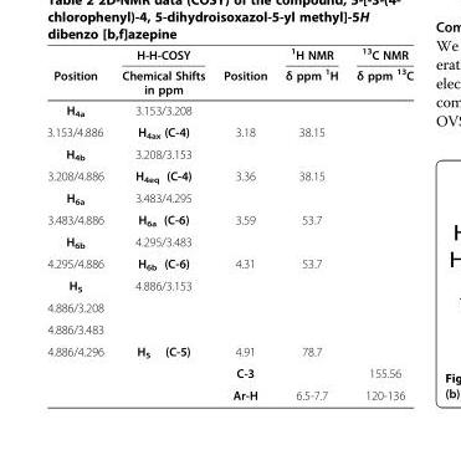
<table><thead><tr><td rowspan="2">Position</td><td rowspan="2">H-H-COSY Chemical Shifts in ppm</td><td rowspan="2">Position</td><td rowspan="2"><sup>1</sup>H NMR δ ppm <sup>1</sup>H</td><td rowspan="2"><sup>13</sup>C NMR δ ppm <sup>13</sup>C</td></tr><tr></tr></thead><tbody><tr><td>H<sub>4a</sub></td><td>3.153/3.208</td><td></td><td></td><td></td></tr><tr><td>3.153/4.886</td><td>H<sub>4ax</sub> (C-4)</td><td>3.18</td><td>38.15</td><td></td></tr><tr><td>H<sub>4b</sub></td><td>3.208/3.153</td><td></td><td></td><td></td></tr><tr><td>3.208/4.886</td><td>H<sub>4eq</sub> (C-4)</td><td>3.36</td><td>38.15</td><td></td></tr><tr><td>H<sub>6a</sub></td><td>3.483/4.295</td><td></td><td></td><td></td></tr><tr><td>3.483/4.886</td><td>H<sub>6a</sub> (C-6)</td><td>3.59</td><td>53.7</td><td></td></tr><tr><td>H<sub>6b</sub></td><td>4.295/3.483</td><td></td><td></td><td></td></tr><tr><td>4.295/4.886</td><td>H<sub>6b</sub> (C-6)</td><td>4.31</td><td>53.7</td><td></td></tr><tr><td>H<sub>5</sub></td><td>4.886/3.153</td><td></td><td></td><td></td></tr><tr><td colspan="5">4.886/3.208</td></tr><tr><td colspan="5">4.886/3.483</td></tr><tr><td rowspan="3">4.886/4.296</td><td>H<sub>5</sub> (C-5)</td><td>4.91</td><td>78.7</td><td></td></tr><tr><td></td><td>C-3</td><td></td><td>155.56</td></tr><tr><td></td><td>Ar-H</td><td>6.5-7.7</td><td>120-136</td></tr></tbody></table>